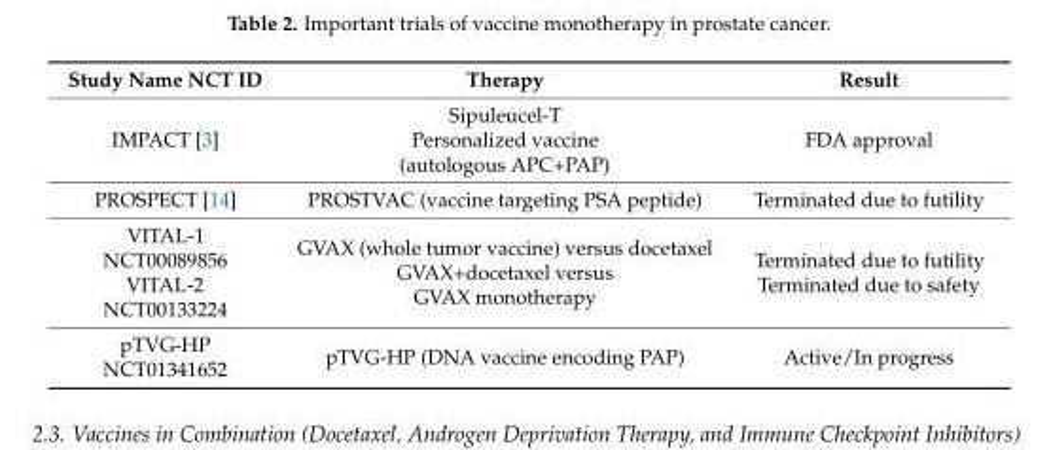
<table><thead><tr><td>Study Name NCT ID</td><td>Therapy</td><td>Result</td></tr></thead><tbody><tr><td>IMPACT [3]</td><td>Sipuleucel-T Personalized vaccine (autologous APC+PAP)</td><td>FDA approval</td></tr><tr><td>PROSPECT [14]</td><td>PROSTVAC (vaccine targeting PSA peptide)</td><td>Terminated due to futility</td></tr><tr><td>VITAL-1 NCT00089856 VITAL-2 NCT00133224</td><td>GVAX (whole tumor vaccine) versus docetaxel GVAX+docetaxel versus GVAX monotherapy</td><td>Terminated due to futility Terminated due to safety</td></tr><tr><td>pTVG-HP NCT01341652</td><td>pTVG-HP (DNA vaccine encoding PAP)</td><td>Active/In progress</td></tr></tbody></table>